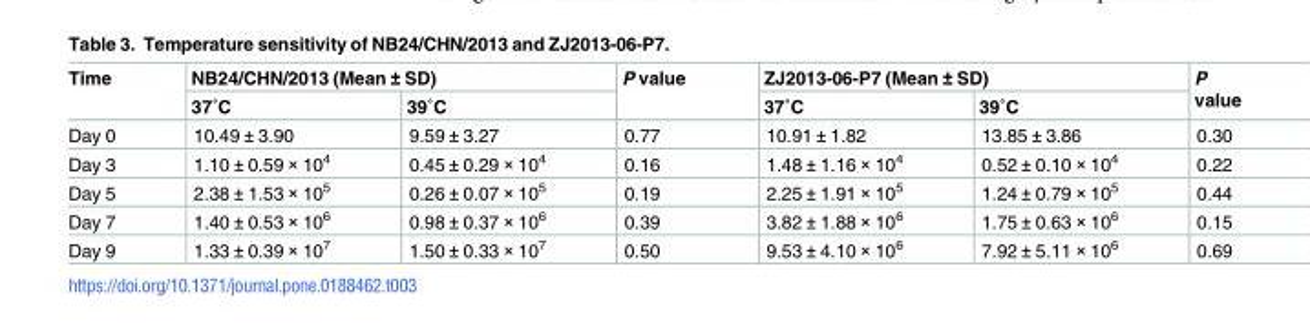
<table><thead><tr><td rowspan="2">Time</td><td colspan="2">NB24/CHN/2013 (Mean ± SD)</td><td rowspan="2">P value</td><td colspan="2">ZJ2013-06-P7 (Mean ± SD)</td><td rowspan="2">P value</td></tr><tr><td>37˚C</td><td>39˚C</td><td>37˚C</td><td>39˚C</td></tr></thead><tbody><tr><td>Day 0</td><td>10.49 ± 3.90</td><td>9.59 ± 3.27</td><td>0.77</td><td>10.91 ± 1.82</td><td>13.85 ± 3.86</td><td>0.30</td></tr><tr><td>Day 3</td><td>1.10 ± 0.59 × 10<sup>4</sup></td><td>0.45 ± 0.29 × 10<sup>4</sup></td><td>0.16</td><td>1.48 ± 1.16 × 10<sup>4</sup></td><td>0.52 ± 0.10 × 10<sup>4</sup></td><td>0.22</td></tr><tr><td>Day 5</td><td>2.38 ± 1.53 × 10<sup>5</sup></td><td>0.26 ± 0.07 × 10<sup>5</sup></td><td>0.19</td><td>2.25 ± 1.91 × 10<sup>5</sup></td><td>1.24 ± 0.79 × 10<sup>5</sup></td><td>0.44</td></tr><tr><td>Day 7</td><td>1.40 ± 0.53 × 10<sup>6</sup></td><td>0.98 ± 0.37 × 10<sup>6</sup></td><td>0.39</td><td>3.82 ± 1.88 × 10<sup>6</sup></td><td>1.75 ± 0.63 × 10<sup>6</sup></td><td>0.15</td></tr><tr><td>Day 9</td><td>1.33 ± 0.39 × 10<sup>7</sup></td><td>1.50 ± 0.33 × 10<sup>7</sup></td><td>0.50</td><td>9.53 ± 4.10 × 10<sup>6</sup></td><td>7.92 ± 5.11 × 10<sup>6</sup></td><td>0.69</td></tr></tbody></table>